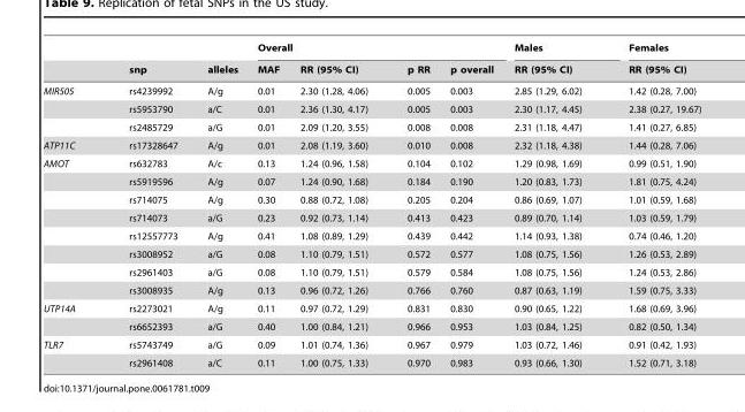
<table><thead><tr><td rowspan="2"></td><td rowspan="2">snp</td><td rowspan="2">alleles</td><td colspan="4">Overall</td><td rowspan="2">Males RR (95% CI)</td><td rowspan="2">Females RR (95% CI)</td></tr><tr><td>MAF</td><td>RR (95% CI)</td><td>p RR</td><td>p overall</td></tr></thead><tbody><tr><td rowspan="3">MIR505</td><td>rs4239992</td><td>A/g</td><td>0.01</td><td>2.30 (1.28, 4.06)</td><td>0.005</td><td>0.003</td><td>2.85 (1.29, 6.02)</td><td>1.42 (0.28, 7.00)</td></tr><tr><td>rs5953790</td><td>a/C</td><td>0.01</td><td>2.36 (1.30, 4.17)</td><td>0.005</td><td>0.003</td><td>2.30 (1.17, 4.45)</td><td>2.38 (0.27, 19.67)</td></tr><tr><td>rs2485729</td><td>a/G</td><td>0.01</td><td>2.09 (1.20, 3.55)</td><td>0.008</td><td>0.008</td><td>2.31 (1.18, 4.47)</td><td>1.41 (0.27, 6.85)</td></tr><tr><td>ATP11C</td><td>rs17328647</td><td>A/g</td><td>0.01</td><td>2.08 (1.19, 3.60)</td><td>0.010</td><td>0.008</td><td>2.32 (1.18, 4.38)</td><td>1.44 (0.28, 7.06)</td></tr><tr><td rowspan="8">AMOT</td><td>rs632783</td><td>A/c</td><td>0.13</td><td>1.24 (0.96, 1.58)</td><td>0.104</td><td>0.102</td><td>1.29 (0.98, 1.69)</td><td>0.99 (0.51, 1.90)</td></tr><tr><td>rs5919596</td><td>A/g</td><td>0.07</td><td>1.24 (0.90, 1.68)</td><td>0.184</td><td>0.190</td><td>1.20 (0.83, 1.73)</td><td>1.81 (0.75, 4.24)</td></tr><tr><td>rs714075</td><td>A/g</td><td>0.30</td><td>0.88 (0.72, 1.08)</td><td>0.205</td><td>0.204</td><td>0.86 (0.69, 1.07)</td><td>1.01 (0.59, 1.68)</td></tr><tr><td>rs714073</td><td>a/G</td><td>0.23</td><td>0.92 (0.73, 1.14)</td><td>0.413</td><td>0.423</td><td>0.89 (0.70, 1.14)</td><td>1.03 (0.59, 1.79)</td></tr><tr><td>rs12557773</td><td>A/g</td><td>0.41</td><td>1.08 (0.89, 1.29)</td><td>0.439</td><td>0.442</td><td>1.14 (0.93, 1.38)</td><td>0.74 (0.46, 1.20)</td></tr><tr><td>rs3008952</td><td>a/G</td><td>0.08</td><td>1.10 (0.79, 1.51)</td><td>0.572</td><td>0.577</td><td>1.08 (0.75, 1.56)</td><td>1.26 (0.53, 2.89)</td></tr><tr><td>rs2961403</td><td>a/G</td><td>0.08</td><td>1.10 (0.79, 1.51)</td><td>0.579</td><td>0.584</td><td>1.08 (0.75, 1.56)</td><td>1.24 (0.53, 2.86)</td></tr><tr><td>rs3008935</td><td>A/g</td><td>0.13</td><td>0.96 (0.72, 1.26)</td><td>0.766</td><td>0.760</td><td>0.87 (0.63, 1.19)</td><td>1.59 (0.75, 3.33)</td></tr><tr><td rowspan="2">UTP14A</td><td>rs2273021</td><td>A/g</td><td>0.11</td><td>0.97 (0.72, 1.29)</td><td>0.831</td><td>0.830</td><td>0.90 (0.65, 1.22)</td><td>1.68 (0.69, 3.96)</td></tr><tr><td>rs6652393</td><td>a/G</td><td>0.40</td><td>1.00 (0.84, 1.21)</td><td>0.966</td><td>0.953</td><td>1.03 (0.84, 1.25)</td><td>0.82 (0.50, 1.34)</td></tr><tr><td rowspan="2">TLR7</td><td>rs5743749</td><td>a/G</td><td>0.09</td><td>1.01 (0.74, 1.36)</td><td>0.967</td><td>0.979</td><td>1.03 (0.72, 1.46)</td><td>0.91 (0.42, 1.93)</td></tr><tr><td>rs2961408</td><td>a/C</td><td>0.11</td><td>1.00 (0.75, 1.33)</td><td>0.970</td><td>0.983</td><td>0.93 (0.66, 1.30)</td><td>1.52 (0.71, 3.18)</td></tr></tbody></table>